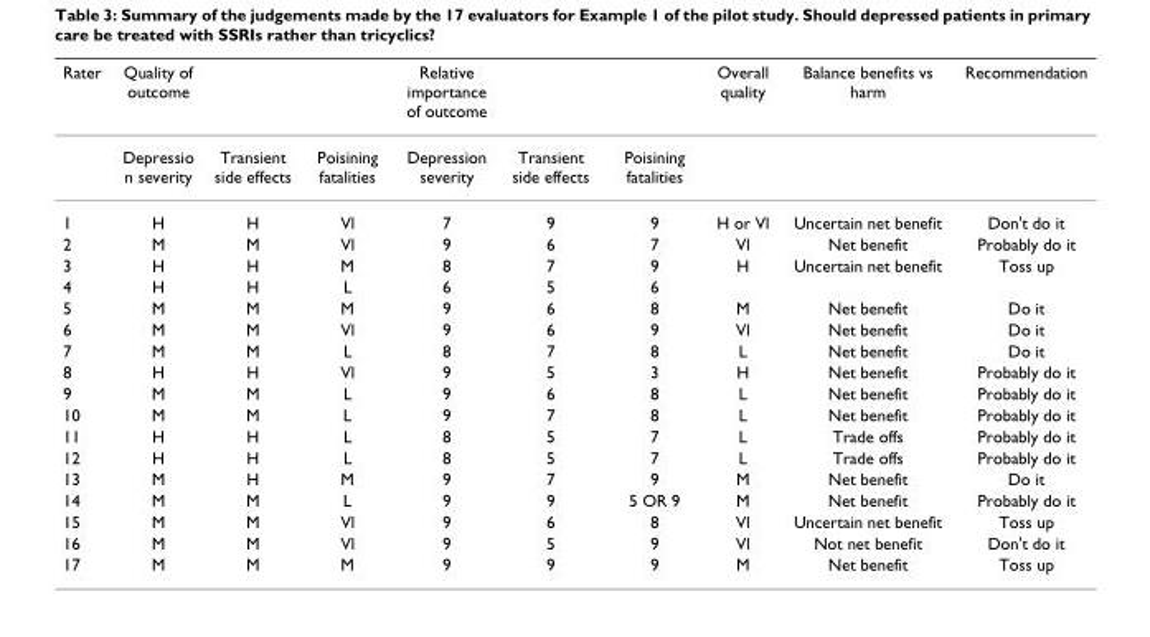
<table><thead><tr><td>Rater</td><td>Quality of outcome</td><td></td><td></td><td>Relative importance of outcome</td><td></td><td></td><td>Overall quality</td><td>Balance benefits vs harm</td><td>Recommendation</td></tr></thead><tbody><tr><td></td><td>Depressio n severity</td><td>Transient side effects</td><td>Poisining fatalities</td><td>Depression severity</td><td>Transient side effects</td><td>Poisining fatalities</td><td></td><td></td><td></td></tr><tr><td>1</td><td>H</td><td>H</td><td>Vl</td><td>7</td><td>9</td><td>9</td><td>H or Vl</td><td>Uncertain net benefit</td><td>Don&#x27;t do it</td></tr><tr><td>2</td><td>M</td><td>M</td><td>Vl</td><td>9</td><td>6</td><td>7</td><td>Vl</td><td>Net benefit</td><td>Probably do it</td></tr><tr><td>3</td><td>H</td><td>H</td><td>M</td><td>8</td><td>7</td><td>9</td><td>H</td><td>Uncertain net benefit</td><td>Toss up</td></tr><tr><td>4</td><td>H</td><td>H</td><td>L</td><td>6</td><td>5</td><td>6</td><td></td><td></td><td></td></tr><tr><td>5</td><td>M</td><td>M</td><td>M</td><td>9</td><td>6</td><td>8</td><td>M</td><td>Net benefit</td><td>Do it</td></tr><tr><td>6</td><td>M</td><td>M</td><td>Vl</td><td>9</td><td>6</td><td>9</td><td>Vl</td><td>Net benefit</td><td>Do it</td></tr><tr><td>7</td><td>M</td><td>M</td><td>L</td><td>8</td><td>7</td><td>8</td><td>L</td><td>Net benefit</td><td>Do it</td></tr><tr><td>8</td><td>H</td><td>H</td><td>Vl</td><td>9</td><td>5</td><td>3</td><td>H</td><td>Net benefit</td><td>Probably do it</td></tr><tr><td>9</td><td>M</td><td>M</td><td>L</td><td>9</td><td>6</td><td>8</td><td>L</td><td>Net benefit</td><td>Probably do it</td></tr><tr><td>10</td><td>M</td><td>M</td><td>L</td><td>9</td><td>7</td><td>8</td><td>L</td><td>Net benefit</td><td>Probably do it</td></tr><tr><td>11</td><td>H</td><td>H</td><td>L</td><td>8</td><td>5</td><td>7</td><td>L</td><td>Trade offs</td><td>Probably do it</td></tr><tr><td>12</td><td>H</td><td>H</td><td>L</td><td>8</td><td>5</td><td>7</td><td>L</td><td>Trade offs</td><td>Probably do it</td></tr><tr><td>13</td><td>M</td><td>H</td><td>M</td><td>9</td><td>7</td><td>9</td><td>M</td><td>Net benefit</td><td>Do it</td></tr><tr><td>14</td><td>M</td><td>M</td><td>L</td><td>9</td><td>9</td><td>5 OR 9</td><td>M</td><td>Net benefit</td><td>Probably do it</td></tr><tr><td>15</td><td>M</td><td>M</td><td>Vl</td><td>9</td><td>6</td><td>8</td><td>Vl</td><td>Uncertain net benefit</td><td>Toss up</td></tr><tr><td>16</td><td>M</td><td>M</td><td>Vl</td><td>9</td><td>5</td><td>9</td><td>Vl</td><td>Not net benefit</td><td>Don&#x27;t do it</td></tr><tr><td>17</td><td>M</td><td>M</td><td>M</td><td>9</td><td>9</td><td>9</td><td>M</td><td>Net benefit</td><td>Toss up</td></tr></tbody></table>